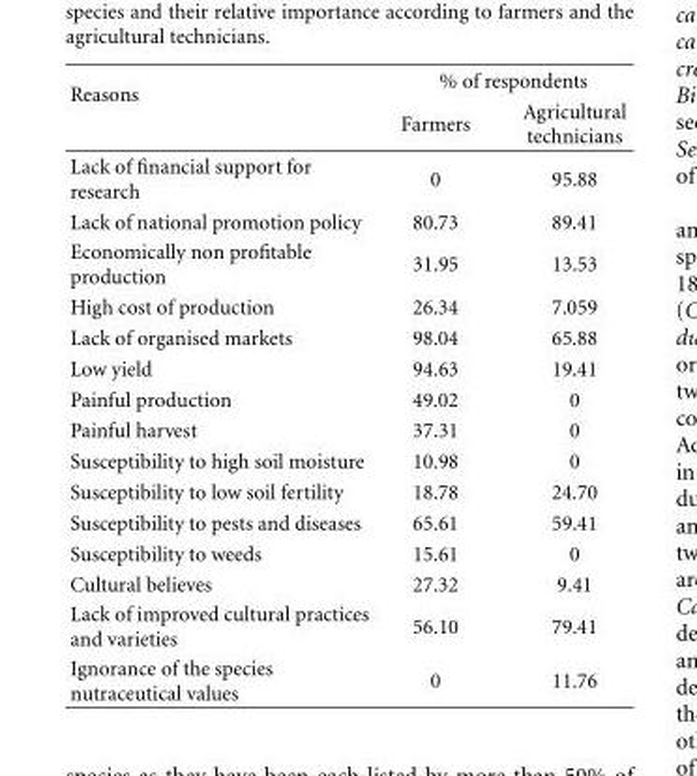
<table><thead><tr><td rowspan="2">Reasons</td><td colspan="2">% of respondents</td></tr><tr><td>Farmers</td><td>Agricultural technicians</td></tr></thead><tbody><tr><td>Lack of financial support for research</td><td>0</td><td>95.88</td></tr><tr><td>Lack of national promotion policy</td><td>80.73</td><td>89.41</td></tr><tr><td>Economically non profitable production</td><td>31.95</td><td>13.53</td></tr><tr><td>High cost of production</td><td>26.34</td><td>7.059</td></tr><tr><td>Lack of organised markets</td><td>98.04</td><td>65.88</td></tr><tr><td>Low yield</td><td>94.63</td><td>19.41</td></tr><tr><td>Painful production</td><td>49.02</td><td>0</td></tr><tr><td>Painful harvest</td><td>37.31</td><td>0</td></tr><tr><td>Susceptibility to high soil moisture</td><td>10.98</td><td>0</td></tr><tr><td>Susceptibility to low soil fertility</td><td>18.78</td><td>24.70</td></tr><tr><td>Susceptibility to pests and diseases</td><td>65.61</td><td>59.41</td></tr><tr><td>Susceptibility to weeds</td><td>15.61</td><td>0</td></tr><tr><td>Cultural believes</td><td>27.32</td><td>9.41</td></tr><tr><td>Lack of improved cultural practices and varieties</td><td>56.10</td><td>79.41</td></tr><tr><td>Ignorance of the species nutraceutical values</td><td>0</td><td>11.76</td></tr></tbody></table>